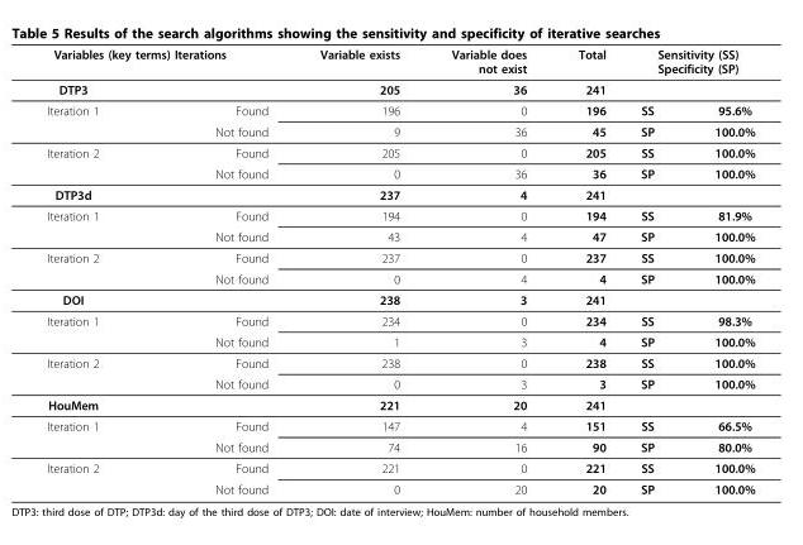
<table><thead><tr><td colspan="2">Variables (key terms) Iterations</td><td rowspan="2">Variable exists 205</td><td rowspan="2">Variable does not exist 36</td><td rowspan="2">Total 241</td><td colspan="2">Sensitivity (SS) Specificity (SP)</td></tr><tr><td>DTP3</td><td></td><td></td><td></td></tr></thead><tbody><tr><td rowspan="2">Iteration 1</td><td>Found</td><td>196</td><td>0</td><td>196</td><td>SS</td><td>95.6%</td></tr><tr><td>Not found</td><td>9</td><td>36</td><td>45</td><td>SP</td><td>100.0%</td></tr><tr><td rowspan="2">Iteration 2</td><td>Found</td><td>205</td><td>0</td><td>205</td><td>SS</td><td>100.0%</td></tr><tr><td>Not found</td><td>0</td><td>36</td><td>36</td><td>SP</td><td>100.0%</td></tr><tr><td>DTP3d</td><td></td><td>237</td><td>4</td><td>241</td><td></td><td></td></tr><tr><td rowspan="2">Iteration 1</td><td>Found</td><td>194</td><td>0</td><td>194</td><td>SS</td><td>81.9%</td></tr><tr><td>Not found</td><td>43</td><td>4</td><td>47</td><td>SP</td><td>100.0%</td></tr><tr><td rowspan="2">Iteration 2</td><td>Found</td><td>237</td><td>0</td><td>237</td><td>SS</td><td>100.0%</td></tr><tr><td>Not found</td><td>0</td><td>4</td><td>4</td><td>SP</td><td>100.0%</td></tr><tr><td>DOI</td><td></td><td>238</td><td>3</td><td>241</td><td></td><td></td></tr><tr><td rowspan="2">Iteration 1</td><td>Found</td><td>234</td><td>0</td><td>234</td><td>SS</td><td>98.3%</td></tr><tr><td>Not found</td><td>1</td><td>3</td><td>4</td><td>SP</td><td>100.0%</td></tr><tr><td rowspan="2">Iteration 2</td><td>Found</td><td>238</td><td>0</td><td>238</td><td>SS</td><td>100.0%</td></tr><tr><td>Not found</td><td>0</td><td>3</td><td>3</td><td>SP</td><td>100.0%</td></tr><tr><td>HouMem</td><td></td><td>221</td><td>20</td><td>241</td><td></td><td></td></tr><tr><td rowspan="2">Iteration 1</td><td>Found</td><td>147</td><td>4</td><td>151</td><td>SS</td><td>66.5%</td></tr><tr><td>Not found</td><td>74</td><td>16</td><td>90</td><td>SP</td><td>80.0%</td></tr><tr><td rowspan="2">Iteration 2</td><td>Found</td><td>221</td><td>0</td><td>221</td><td>SS</td><td>100.0%</td></tr><tr><td>Not found</td><td>0</td><td>20</td><td>20</td><td>SP</td><td>100.0%</td></tr></tbody></table>